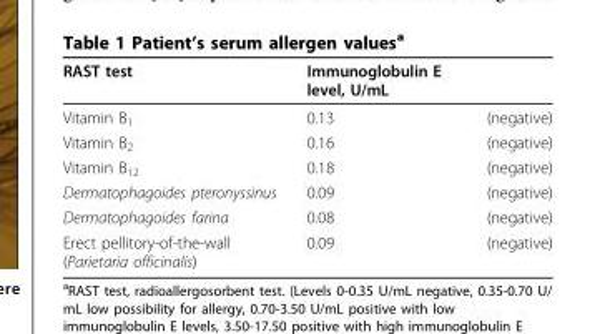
<table><thead><tr><td>RAST test</td><td>Immunoglobulin E level, U/mL</td><td></td></tr></thead><tbody><tr><td>Vitamin B<sub>1</sub></td><td>0.13</td><td>(negative)</td></tr><tr><td>Vitamin B<sub>2</sub></td><td>0.16</td><td>(negative)</td></tr><tr><td>Vitamin B<sub>12</sub></td><td>0.18</td><td>(negative)</td></tr><tr><td>Dermatophagoides pteronyssinus</td><td>0.09</td><td>(negative)</td></tr><tr><td>Dermatophagoides farina</td><td>0.08</td><td>(negative)</td></tr><tr><td>Erect pellitory-of-the-wall (Parietaria officinalis)</td><td>0.09</td><td>(negative)</td></tr></tbody></table>